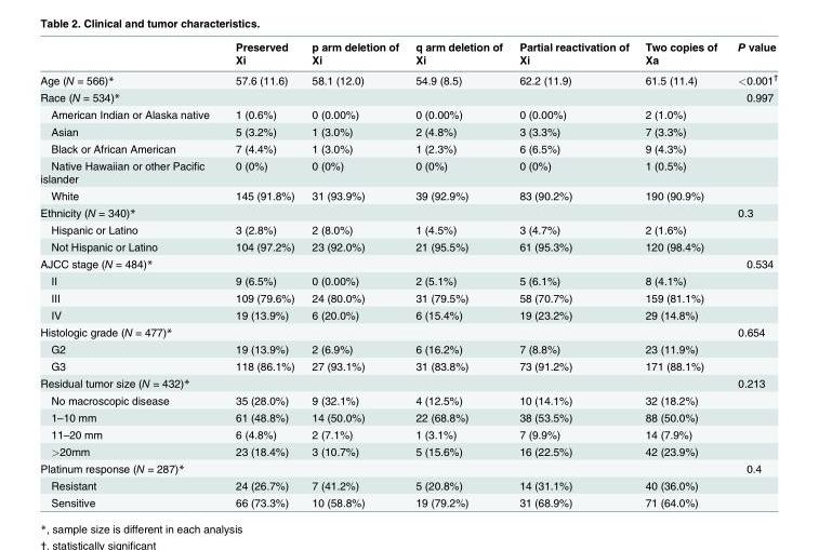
<table><thead><tr><td></td><td>Preserved Xi</td><td>p arm deletion of Xi</td><td>q arm deletion of Xi</td><td>Partial reactivation of Xi</td><td>Two copies of Xa</td><td>P value</td></tr></thead><tbody><tr><td>Age (N = 566)*</td><td>57.6 (11.6)</td><td>58.1 (12.0)</td><td>54.9 (8.5)</td><td>62.2 (11.9)</td><td>61.5 (11.4)</td><td>&lt;0.001<sup>†</sup></td></tr><tr><td>Race (N = 534)*</td><td></td><td></td><td></td><td></td><td></td><td>0.997</td></tr><tr><td>American Indian or Alaska native</td><td>1 (0.6%)</td><td>0 (0.00%)</td><td>0 (0.00%)</td><td>0 (0.00%)</td><td>2 (1.0%)</td><td></td></tr><tr><td>Asian</td><td>5 (3.2%)</td><td>1 (3.0%)</td><td>2 (4.8%)</td><td>3 (3.3%)</td><td>7 (3.3%)</td><td></td></tr><tr><td>Black or African American</td><td>7 (4.4%)</td><td>1 (3.0%)</td><td>1 (2.3%)</td><td>6 (6.5%)</td><td>9 (4.3%)</td><td></td></tr><tr><td>Native Hawaiian or other Pacific islander</td><td>0 (0%)</td><td>0 (0%)</td><td>0 (0%)</td><td>0 (0%)</td><td>1 (0.5%)</td><td></td></tr><tr><td>White</td><td>145 (91.8%)</td><td>31 (93.9%)</td><td>39 (92.9%)</td><td>83 (90.2%)</td><td>190 (90.9%)</td><td></td></tr><tr><td>Ethnicity (N = 340)*</td><td></td><td></td><td></td><td></td><td></td><td>0.3</td></tr><tr><td>Hispanic or Latino</td><td>3 (2.8%)</td><td>2 (8.0%)</td><td>1 (4.5%)</td><td>3 (4.7%)</td><td>2 (1.6%)</td><td></td></tr><tr><td>Not Hispanic or Latino</td><td>104 (97.2%)</td><td>23 (92.0%)</td><td>21 (95.5%)</td><td>61 (95.3%)</td><td>120 (98.4%)</td><td></td></tr><tr><td>AJCC stage (N = 484)*</td><td></td><td></td><td></td><td></td><td></td><td>0.534</td></tr><tr><td>II</td><td>9 (6.5%)</td><td>0 (0.00%)</td><td>2 (5.1%)</td><td>5 (6.1%)</td><td>8 (4.1%)</td><td></td></tr><tr><td>III</td><td>109 (79.6%)</td><td>24 (80.0%)</td><td>31 (79.5%)</td><td>58 (70.7%)</td><td>159 (81.1%)</td><td></td></tr><tr><td>IV</td><td>19 (13.9%)</td><td>6 (20.0%)</td><td>6 (15.4%)</td><td>19 (23.2%)</td><td>29 (14.8%)</td><td></td></tr><tr><td>Histologic grade (N = 477)*</td><td></td><td></td><td></td><td></td><td></td><td>0.654</td></tr><tr><td>G2</td><td>19 (13.9%)</td><td>2 (6.9%)</td><td>6 (16.2%)</td><td>7 (8.8%)</td><td>23 (11.9%)</td><td></td></tr><tr><td>G3</td><td>118 (86.1%)</td><td>27 (93.1%)</td><td>31 (83.8%)</td><td>73 (91.2%)</td><td>171 (88.1%)</td><td></td></tr><tr><td>Residual tumor size (N = 432)*</td><td></td><td></td><td></td><td></td><td></td><td>0.213</td></tr><tr><td>No macroscopic disease</td><td>35 (28.0%)</td><td>9 (32.1%)</td><td>4 (12.5%)</td><td>10 (14.1%)</td><td>32 (18.2%)</td><td></td></tr><tr><td>1–10 mm</td><td>61 (48.8%)</td><td>14 (50.0%)</td><td>22 (68.8%)</td><td>38 (53.5%)</td><td>88 (50.0%)</td><td></td></tr><tr><td>11–20 mm</td><td>6 (4.8%)</td><td>2 (7.1%)</td><td>1 (3.1%)</td><td>7 (9.9%)</td><td>14 (7.9%)</td><td></td></tr><tr><td>&gt;20mm</td><td>23 (18.4%)</td><td>3 (10.7%)</td><td>5 (15.6%)</td><td>16 (22.5%)</td><td>42 (23.9%)</td><td></td></tr><tr><td>Platinum response (N = 287)*</td><td></td><td></td><td></td><td></td><td></td><td>0.4</td></tr><tr><td>Resistant</td><td>24 (26.7%)</td><td>7 (41.2%)</td><td>5 (20.8%)</td><td>14 (31.1%)</td><td>40 (36.0%)</td><td></td></tr><tr><td>Sensitive</td><td>66 (73.3%)</td><td>10 (58.8%)</td><td>19 (79.2%)</td><td>31 (68.9%)</td><td>71 (64.0%)</td><td></td></tr></tbody></table>